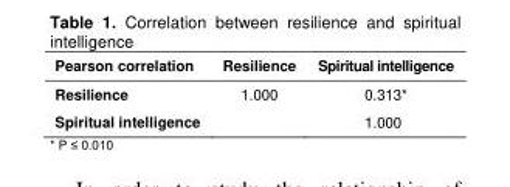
<table><thead><tr><td>Pearson correlation</td><td>Resilience</td><td>Spiritual intelligence</td></tr></thead><tbody><tr><td>Resilience</td><td>1.000</td><td>0.313*</td></tr><tr><td>Spiritual intelligence</td><td></td><td>1.000*</td></tr></tbody></table>